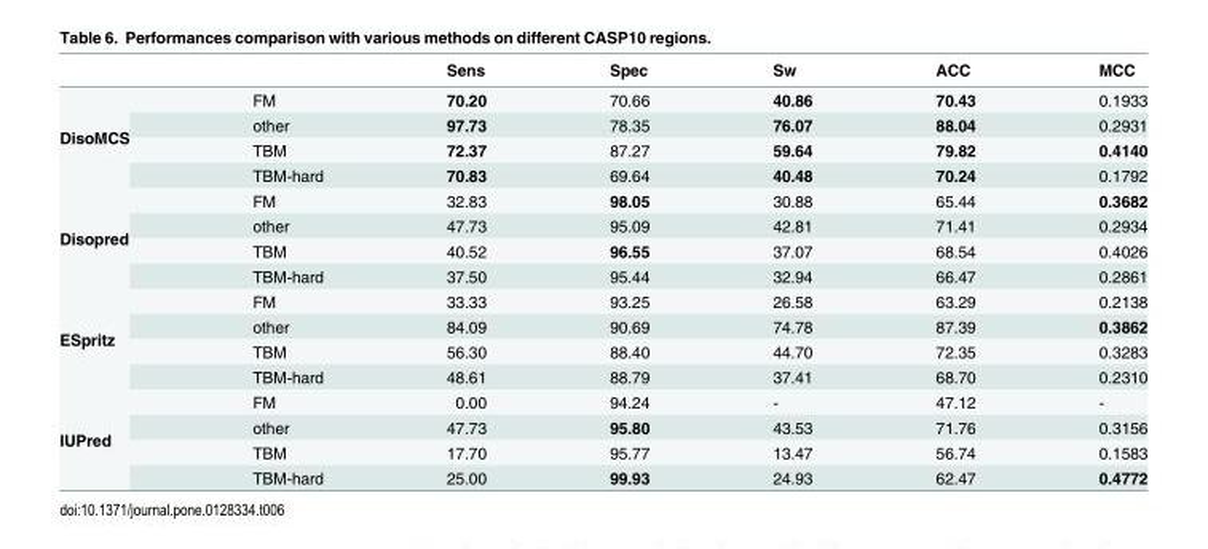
<table><thead><tr><td></td><td></td><td>Sens</td><td>Spec</td><td>Sw</td><td>ACC</td><td>MCC</td></tr></thead><tbody><tr><td rowspan="4">DisoMCS</td><td>FM</td><td>70.20</td><td>70.66</td><td>40.86</td><td>70.43</td><td>0.1933</td></tr><tr><td>other</td><td>97.73</td><td>78.35</td><td>76.07</td><td>88.04</td><td>0.2931</td></tr><tr><td>TBM</td><td>72.37</td><td>87.27</td><td>59.64</td><td>79.82</td><td>0.4140</td></tr><tr><td>TBM-hard</td><td>70.83</td><td>69.64</td><td>40.48</td><td>70.24</td><td>0.1792</td></tr><tr><td rowspan="4">Disopred</td><td>FM</td><td>32.83</td><td>98.05</td><td>30.88</td><td>65.44</td><td>0.3682</td></tr><tr><td>other</td><td>47.73</td><td>95.09</td><td>42.81</td><td>71.41</td><td>0.2934</td></tr><tr><td>TBM</td><td>40.52</td><td>96.55</td><td>37.07</td><td>68.54</td><td>0.4026</td></tr><tr><td>TBM-hard</td><td>37.50</td><td>95.44</td><td>32.94</td><td>66.47</td><td>0.2861</td></tr><tr><td rowspan="4">ESpritz</td><td>FM</td><td>33.33</td><td>93.25</td><td>26.58</td><td>63.29</td><td>0.2138</td></tr><tr><td>other</td><td>84.09</td><td>90.69</td><td>74.78</td><td>87.39</td><td>0.3862</td></tr><tr><td>TBM</td><td>56.30</td><td>88.40</td><td>44.70</td><td>72.35</td><td>0.3283</td></tr><tr><td>TBM-hard</td><td>48.61</td><td>88.79</td><td>37.41</td><td>68.70</td><td>0.2310</td></tr><tr><td rowspan="4">IUPred</td><td>FM</td><td>0.00</td><td>94.24</td><td>-</td><td>47.12</td><td>-</td></tr><tr><td>other</td><td>47.73</td><td>95.80</td><td>43.53</td><td>71.76</td><td>0.3156</td></tr><tr><td>TBM</td><td>17.70</td><td>95.77</td><td>13.47</td><td>56.74</td><td>0.1583</td></tr><tr><td>TBM-hard</td><td>25.00</td><td>99.93</td><td>24.93</td><td>62.47</td><td>0.4772</td></tr></tbody></table>